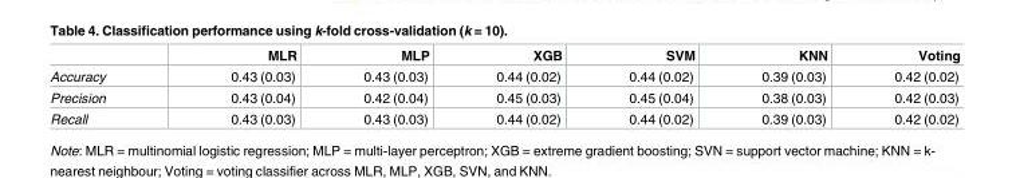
<table><thead><tr><td></td><td>MLR</td><td>MLP</td><td>XGB</td><td>SVM</td><td>KNN</td><td>Voting</td></tr></thead><tbody><tr><td>Accuracy</td><td>0.43 (0.03)</td><td>0.43 (0.03)</td><td>0.44 (0.02)</td><td>0.44 (0.02)</td><td>0.39 (0.03)</td><td>0.42 (0.02)</td></tr><tr><td>Precision</td><td>0.43 (0.04)</td><td>0.42 (0.04)</td><td>0.45 (0.03)</td><td>0.45 (0.04)</td><td>0.38 (0.03)</td><td>0.42 (0.03)</td></tr><tr><td>Recall</td><td>0.43 (0.03)</td><td>0.43 (0.03)</td><td>0.44 (0.02)</td><td>0.44 (0.02)</td><td>0.39 (0.03)</td><td>0.42 (0.02)</td></tr></tbody></table>